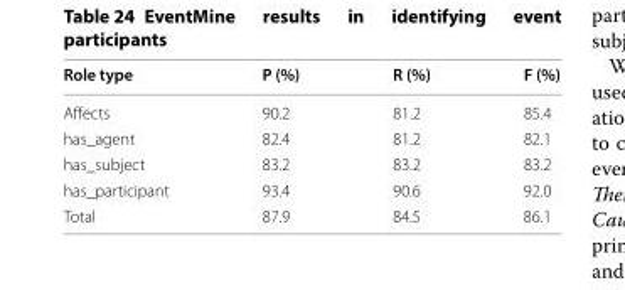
<table><thead><tr><td>Role type</td><td>P (%)</td><td>R (%)</td><td>F (%)</td></tr></thead><tbody><tr><td>Affects</td><td>90.2</td><td>81.2</td><td>85.4</td></tr><tr><td>has_agent</td><td>82.4</td><td>81.2</td><td>82.1</td></tr><tr><td>has_subject</td><td>83.2</td><td>83.2</td><td>83.2</td></tr><tr><td>has_participant</td><td>93.4</td><td>90.6</td><td>92.0</td></tr><tr><td>Total</td><td>87.9</td><td>84.5</td><td>86.1</td></tr></tbody></table>